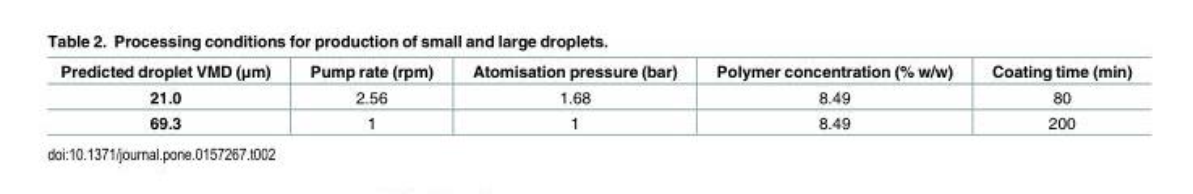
<table><thead><tr><td>Predicted droplet VMD (μm)</td><td>Pump rate (rpm)</td><td>Atomisation pressure (bar)</td><td>Polymer concentration (% w/w)</td><td>Coating time (min)</td></tr></thead><tbody><tr><td>21.0</td><td>2.56</td><td>1.68</td><td>8.49</td><td>80</td></tr><tr><td>69.3</td><td>1</td><td>1</td><td>8.49</td><td>200</td></tr></tbody></table>